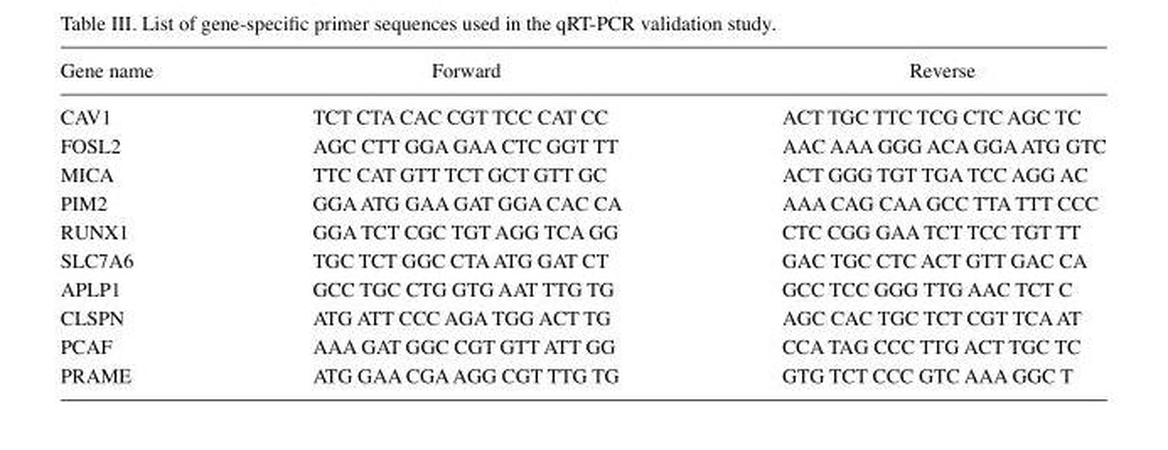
<table><thead><tr><td>Gene name</td><td>Forward</td><td>Reverse</td></tr></thead><tbody><tr><td>CAV1</td><td>TCT CTA CAC CGT TCC CAT CC</td><td>ACT TGC TTC TCG CTC AGC TC</td></tr><tr><td>FOSL2</td><td>AGC CTT GGA GAA CTC GGT TT</td><td>AAC AAA GGG ACA GGA ATG GTC</td></tr><tr><td>MICA</td><td>TTC CAT GTT TCT GCT GTT GC</td><td>ACT GGG TGT TGA TCC AGG AC</td></tr><tr><td>PIM2</td><td>GGA ATG GAA GAT GGA CAC CA</td><td>AAA CAG CAA GCC TTA TTT CCC</td></tr><tr><td>RUNX1</td><td>GGA TCT CGC TGT AGG TCA GG</td><td>CTC CGG GAA TCT TCC TGT TT</td></tr><tr><td>SLC7A6</td><td>TGC TCT GGC CTA ATG GAT CT</td><td>GAC TGC CTC ACT GTT GAC CA</td></tr><tr><td>APLP1</td><td>GCC TGC CTG GTG AAT TTG TG</td><td>GCC TCC GGG TTG AAC TCT C</td></tr><tr><td>CLSPN</td><td>ATG ATT CCC AGA TGG ACT TG</td><td>AGC CAC TGC TCT CGT TCA AT</td></tr><tr><td>PCAF</td><td>AAA GAT GGC CGT GTT ATT GG</td><td>CCA TAG CCC TTG ACT TGC TC</td></tr><tr><td>PRAME</td><td>ATG GAA CGA AGG CGT TTG TG</td><td>GTG TCT CCC GTC AAA GGC T</td></tr></tbody></table>